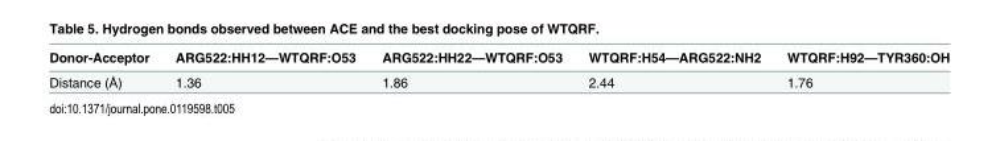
<table><thead><tr><td>Donor-Acceptor</td><td>ARG522:HH12—WTQRF:O53</td><td>ARG522:HH22—WTQRF:O53</td><td>WTQRF:H54—ARG522:NH2</td><td>WTQRF:H92—TYR360:OH</td></tr></thead><tbody><tr><td>Distance (Å)</td><td>1.36</td><td>1.86</td><td>2.44</td><td>1.76</td></tr></tbody></table>